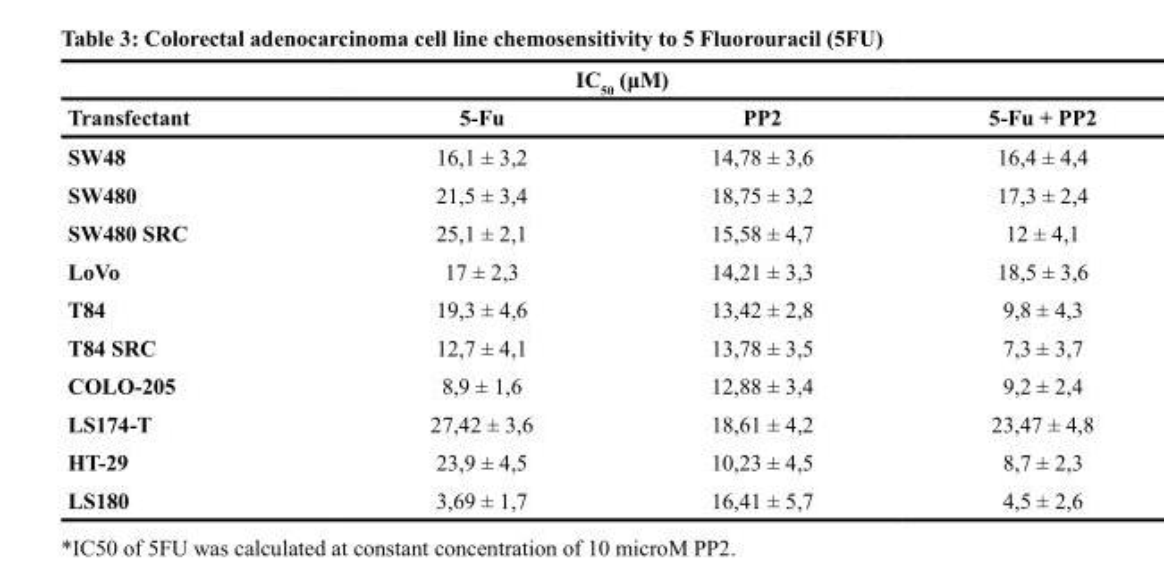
<table><thead><tr><td colspan="4">IC<sub>50</sub> (μM)</td></tr><tr><td>Transfectant</td><td>5-Fu</td><td>PP2</td><td>5-Fu + PP2</td></tr></thead><tbody><tr><td>SW48</td><td>16,1 ± 3,2</td><td>14,78 ± 3,6</td><td>16,4 ± 4,4</td></tr><tr><td>SW480</td><td>21,5 ± 3,4</td><td>18,75 ± 3,2</td><td>17,3 ± 2,4</td></tr><tr><td>SW480 SRC</td><td>25,1 ± 2,1</td><td>15,58 ± 4,7</td><td>12 ± 4,1</td></tr><tr><td>LoVo</td><td>17 ± 2,3</td><td>14,21 ± 3,3</td><td>18,5 ± 3,6</td></tr><tr><td>T84</td><td>19,3 ± 4,6</td><td>13,42 ± 2,8</td><td>9,8 ± 4,3</td></tr><tr><td>T84 SRC</td><td>12,7 ± 4,1</td><td>13,78 ± 3,5</td><td>7,3 ± 3,7</td></tr><tr><td>COLO-205</td><td>8,9 ± 1,6</td><td>12,88 ± 3,4</td><td>9,2 ± 2,4</td></tr><tr><td>LS174-T</td><td>27,42 ± 3,6</td><td>18,61 ± 4,2</td><td>23,47 ± 4,8</td></tr><tr><td>HT-29</td><td>23,9 ± 4,5</td><td>10,23 ± 4,5</td><td>8,7 ± 2,3</td></tr><tr><td>LS180</td><td>3,69 ± 1,7</td><td>16,41 ± 5,7</td><td>4,5 ± 2,6</td></tr></tbody></table>